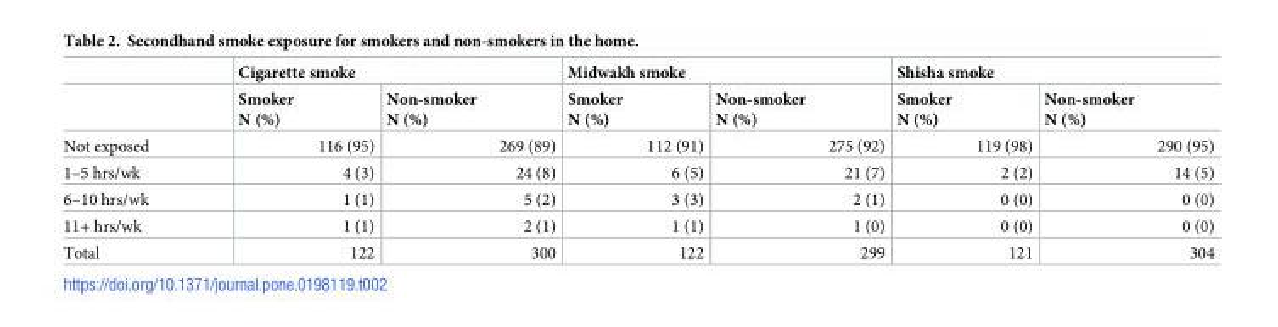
<table><thead><tr><td rowspan="2"></td><td colspan="2">Cigarette smoke</td><td colspan="2">Midwakh smoke</td><td colspan="2">Shisha smoke</td></tr><tr><td>Smoker N (%)</td><td>Non-smoker N (%)</td><td>Smoker N (%)</td><td>Non-smoker N (%)</td><td>Smoker N (%)</td><td>Non-smoker N (%)</td></tr></thead><tbody><tr><td>Not exposed</td><td>116 (95)</td><td>269 (89)</td><td>112 (91)</td><td>275 (92)</td><td>119 (98)</td><td>290 (95)</td></tr><tr><td>1–5 hrs/wk</td><td>4 (3)</td><td>24 (8)</td><td>6 (5)</td><td>21 (7)</td><td>2 (2)</td><td>14 (5)</td></tr><tr><td>6–10 hrs/wk</td><td>1 (1)</td><td>5 (2)</td><td>3 (3)</td><td>2 (1)</td><td>0 (0)</td><td>0 (0)</td></tr><tr><td>11+ hrs/wk</td><td>1 (1)</td><td>2 (1)</td><td>1 (1)</td><td>1 (0)</td><td>0 (0)</td><td>0 (0)</td></tr><tr><td>Total</td><td>122</td><td>300</td><td>122</td><td>299</td><td>121</td><td>304</td></tr></tbody></table>